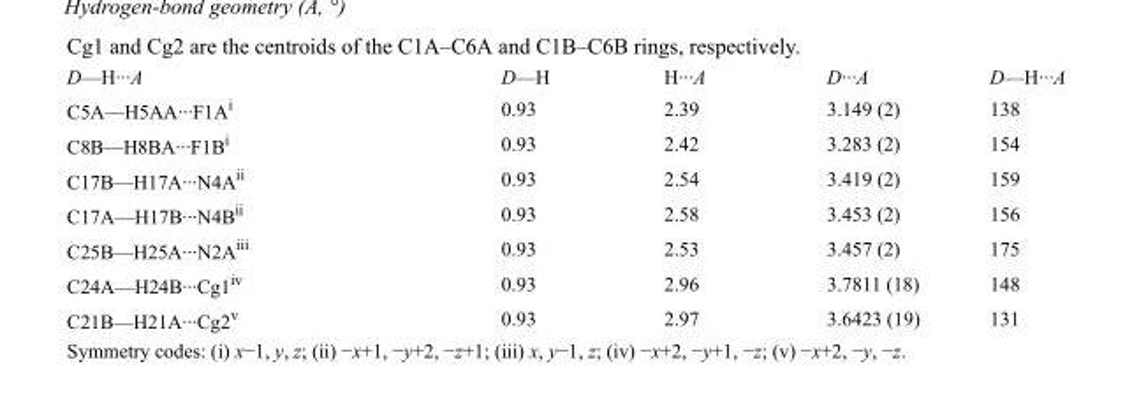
<table><tbody><tr><td>D—H···A</td><td>D—H</td><td>H···A</td><td>D···A</td><td>D—H···A</td></tr><tr><td>C5A—H5AA···F1A<sup>i</sup></td><td>0.93</td><td>2.39</td><td>3.149 (2)</td><td>138</td></tr><tr><td>C8B—H8BA···F1B<sup>i</sup></td><td>0.93</td><td>2.42</td><td>3.283 (2)</td><td>154</td></tr><tr><td>C17B—H17A···N4A<sup>ii</sup></td><td>0.93</td><td>2.54</td><td>3.419 (2)</td><td>159</td></tr><tr><td>C17A—H17B···N4B<sup>ii</sup></td><td>0.93</td><td>2.58</td><td>3.453 (2)</td><td>156</td></tr><tr><td>C25B—H25A···N2A<sup>iii</sup></td><td>0.93</td><td>2.53</td><td>3.457 (2)</td><td>175</td></tr><tr><td>C24A—H24B···Cg1<sup>iv</sup></td><td>0.93</td><td>2.96</td><td>3.7811 (18)</td><td>148</td></tr><tr><td>C21B—H21A···Cg2<sup>v</sup></td><td>0.93</td><td>2.97</td><td>3.6423 (19)</td><td>131</td></tr></tbody></table>